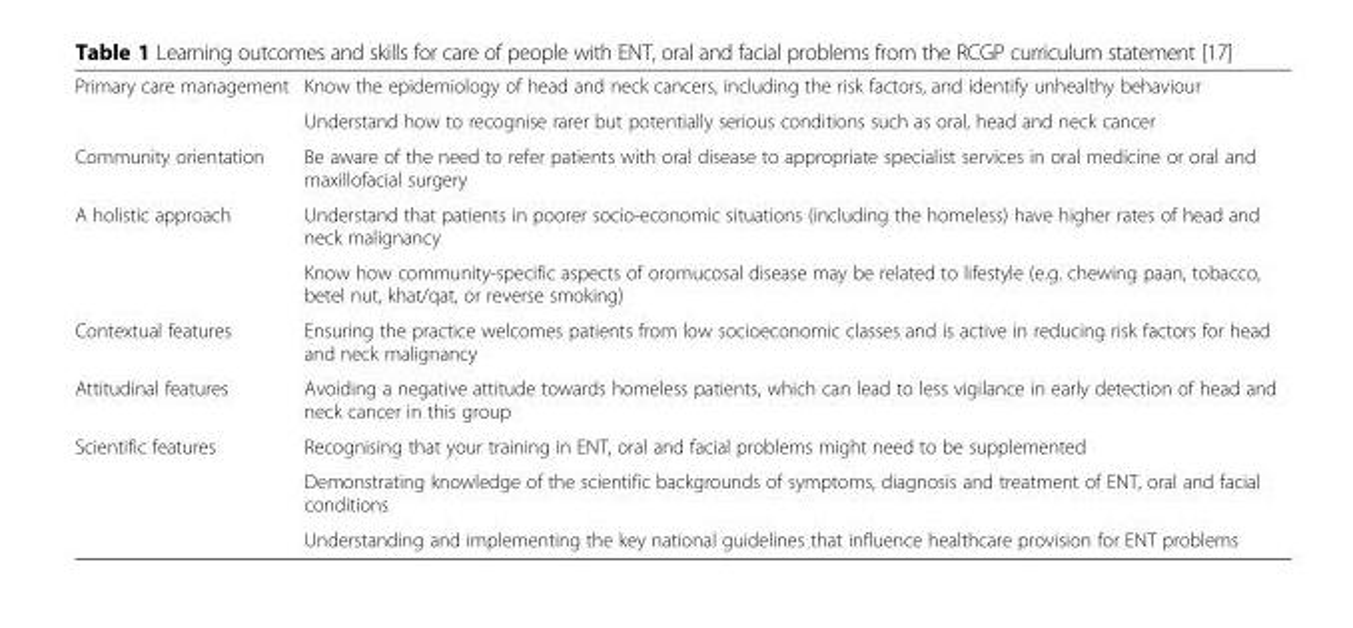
<table><tbody><tr><td rowspan="2">Primary care management</td><td>Know the epidemiology of head and neck cancers, including the risk factors, and identify unhealthy behaviour</td></tr><tr><td>Understand how to recognise rarer but potentially serious conditions such as oral, head and neck cancer</td></tr><tr><td>Community orientation</td><td>Be aware of the need to refer patients with oral disease to appropriate specialist services in oral medicine or oral and maxillofacial surgery</td></tr><tr><td rowspan="2">A holistic approach</td><td>Understand that patients in poorer socio-economic situations (including the homeless) have higher rates of head and neck malignancy</td></tr><tr><td>Know how community-specific aspects of oromucosal disease may be related to lifestyle (e.g. chewing paan, tobacco, betel nut, khat/qat, or reverse smoking)</td></tr><tr><td>Contextual features</td><td>Ensuring the practice welcomes patients from low socioeconomic classes and is active in reducing risk factors for head and neck malignancy</td></tr><tr><td>Attitudinal features</td><td>Avoiding a negative attitude towards homeless patients, which can lead to less vigilance in early detection of head and neck cancer in this group</td></tr><tr><td rowspan="3">Scientific features</td><td>Recognising that your training in ENT, oral and facial problems might need to be supplemented</td></tr><tr><td>Demonstrating knowledge of the scientific backgrounds of symptoms, diagnosis and treatment of ENT, oral and facial conditions</td></tr><tr><td>Understanding and implementing the key national guidelines that influence healthcare provision for ENT problems</td></tr></tbody></table>